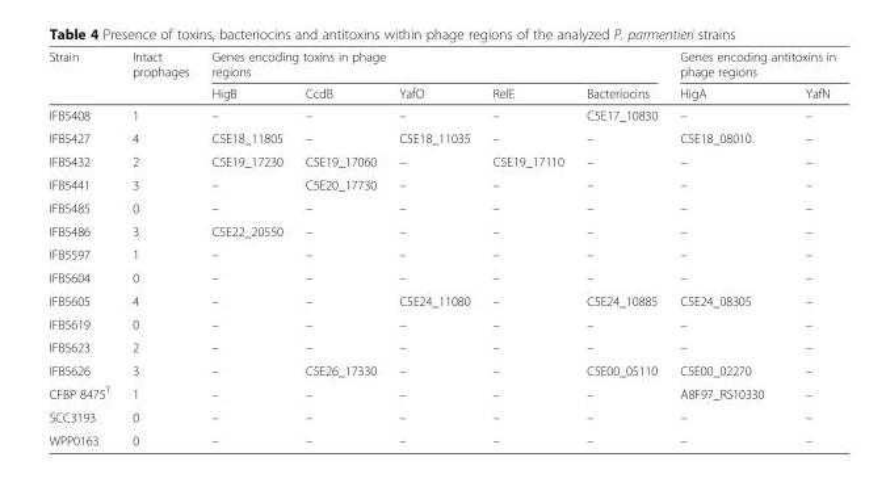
<table><thead><tr><td rowspan="2">Strain</td><td rowspan="2">Intact prophages</td><td colspan="5">Genes encoding toxins in phage regions</td><td colspan="2">Genes encoding antitoxins in phage regions</td></tr><tr><td>HigB</td><td>CcdB</td><td>YafO</td><td>RelE</td><td>Bacteriocins</td><td>HigA</td><td>YafN</td></tr></thead><tbody><tr><td>IFB5408</td><td>1</td><td>–</td><td>–</td><td>–</td><td>–</td><td>C5E17_10830</td><td>–</td><td>–</td></tr><tr><td>IFB5427</td><td>4</td><td>C5E18_11805</td><td>–</td><td>C5E18_11035</td><td>–</td><td>–</td><td>C5E18_08010</td><td>–</td></tr><tr><td>IFB5432</td><td>2</td><td>C5E19_17230</td><td>C5E19_17060</td><td>–</td><td>C5E19_17110</td><td>–</td><td>–</td><td>–</td></tr><tr><td>IFB5441</td><td>3</td><td>–</td><td>C5E20_17730</td><td>–</td><td>–</td><td>–</td><td>–</td><td>–</td></tr><tr><td>IFB5485</td><td>0</td><td>–</td><td>–</td><td>–</td><td>–</td><td>–</td><td>–</td><td>–</td></tr><tr><td>IFB5486</td><td>3</td><td>C5E22_20550</td><td>–</td><td>–</td><td>–</td><td>–</td><td>–</td><td>–</td></tr><tr><td>IFB5597</td><td>1</td><td>–</td><td>–</td><td>–</td><td>–</td><td>–</td><td>–</td><td>–</td></tr><tr><td>IFB5604</td><td>0</td><td>–</td><td>–</td><td>–</td><td>–</td><td>–</td><td>–</td><td>–</td></tr><tr><td>IFB5605</td><td>4</td><td>–</td><td>–</td><td>C5E24_11080</td><td>–</td><td>C5E24_10885</td><td>C5E24_08305</td><td>–</td></tr><tr><td>IFB5619</td><td>0</td><td>–</td><td>–</td><td>–</td><td>–</td><td>–</td><td>–</td><td>–</td></tr><tr><td>IFB5623</td><td>2</td><td>–</td><td>–</td><td>–</td><td>–</td><td>–</td><td>–</td><td>–</td></tr><tr><td>IFB5626</td><td>3</td><td>–</td><td>C5E26_17330</td><td>–</td><td>–</td><td>C5E00_05110</td><td>C5E00_02270</td><td>–</td></tr><tr><td>CFBP 8475<sup>T</sup></td><td>1</td><td>–</td><td>–</td><td>–</td><td>–</td><td>–</td><td>A8F97_RS10330</td><td>–</td></tr><tr><td>SCC3193</td><td>0</td><td>–</td><td>–</td><td>–</td><td>–</td><td>–</td><td>–</td><td>–</td></tr><tr><td>WPP0163</td><td>0</td><td>–</td><td>–</td><td>–</td><td>–</td><td>–</td><td>–</td><td>–</td></tr></tbody></table>